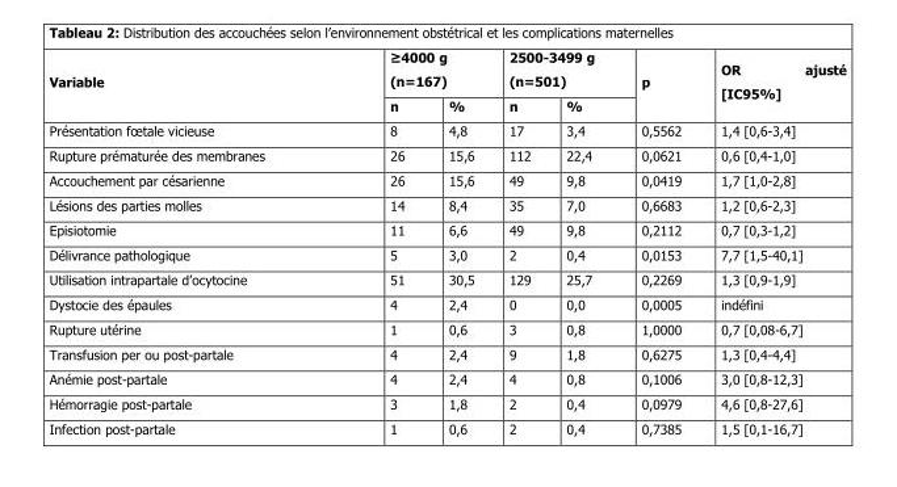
<table><thead><tr><td rowspan="2">Variable</td><td colspan="2">≥4000 g (n=167)</td><td colspan="2">2500-3499 g (n=501)</td><td rowspan="2">p</td><td rowspan="2">OR ajusté [IC95%]</td></tr><tr><td>n</td><td>%</td><td>n</td><td>%</td></tr></thead><tbody><tr><td>Présentation fœtale vicieuse</td><td>8</td><td>4,8</td><td>17</td><td>3,4</td><td>0,5562</td><td>1,4 [0,6-3,4]</td></tr><tr><td>Rupture prématurée des membranes</td><td>26</td><td>15,6</td><td>112</td><td>22,4</td><td>0,0621</td><td>0,6 [0,4-1,0]</td></tr><tr><td>Accouchement par césarienne</td><td>26</td><td>15,6</td><td>49</td><td>9,8</td><td>0,0419</td><td>1,7 [1,0-2,8]</td></tr><tr><td>Lésions des parties molles</td><td>14</td><td>8,4</td><td>35</td><td>7,0</td><td>0,6683</td><td>1,2 [0,6-2,3]</td></tr><tr><td>Episiotomie</td><td>11</td><td>6,6</td><td>49</td><td>9,8</td><td>0,2112</td><td>0,7 [0,3-1,2]</td></tr><tr><td>Délivrance pathologique</td><td>5</td><td>3,0</td><td>2</td><td>0,4</td><td>0,0153</td><td>7,7 [1,5-40,1]</td></tr><tr><td>Utilisation intrapartale d’ocytocine</td><td>51</td><td>30,5</td><td>129</td><td>25,7</td><td>0,2269</td><td>1,3 [0,9-1,9]</td></tr><tr><td>Dystocie des épaules</td><td>4</td><td>2,4</td><td>0</td><td>0,0</td><td>0,0005</td><td>indéfini</td></tr><tr><td>Rupture utérine</td><td>1</td><td>0,6</td><td>3</td><td>0,8</td><td>1,0000</td><td>0,7 [0,08-6,7]</td></tr><tr><td>Transfusion per ou post-partale</td><td>4</td><td>2,4</td><td>9</td><td>1,8</td><td>0,6275</td><td>1,3 [0,4-4,4]</td></tr><tr><td>Anémie post-partale</td><td>4</td><td>2,4</td><td>4</td><td>0,8</td><td>0,1006</td><td>3,0 [0,8-12,3]</td></tr><tr><td>Hémorragie post-partale</td><td>3</td><td>1,8</td><td>2</td><td>0,4</td><td>0,0979</td><td>4,6 [0,8-27,6]</td></tr><tr><td>Infection post-partale</td><td>1</td><td>0,6</td><td>2</td><td>0,4</td><td>0,7385</td><td>1,5 [0,1-16,7]</td></tr></tbody></table>